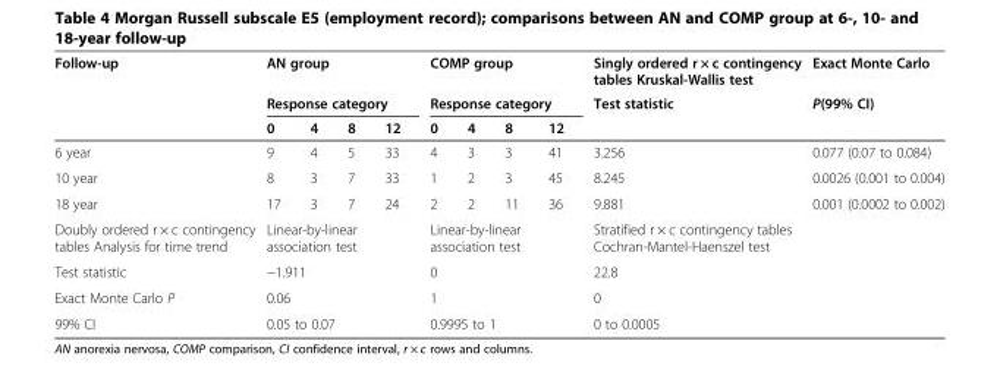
<table><thead><tr><td rowspan="3">Follow-up</td><td rowspan="2" colspan="4">AN group Response category</td><td rowspan="2" colspan="4">COMP group Response category</td><td rowspan="3">Singly ordered r × c contingency tables Kruskal-Wallis test Test statistic</td><td rowspan="3">Exact Monte Carlo P(99% CI)</td></tr><tr></tr><tr><td>0</td><td>4</td><td>8</td><td>12</td><td>0</td><td>4</td><td>8</td><td>12</td></tr></thead><tbody><tr><td>6 year</td><td>9</td><td>4</td><td>5</td><td>33</td><td>4</td><td>3</td><td>3</td><td>41</td><td>3.256</td><td>0.077 (0.07 to 0.084)</td></tr><tr><td>10 year</td><td>8</td><td>3</td><td>7</td><td>33</td><td>1</td><td>2</td><td>3</td><td>45</td><td>8.245</td><td>0.0026 (0.001 to 0.004)</td></tr><tr><td>18 year</td><td>17</td><td>3</td><td>7</td><td>24</td><td>2</td><td>2</td><td>11</td><td>36</td><td>9.881</td><td>0.001 (0.0002 to 0.002)</td></tr><tr><td>Doubly ordered r × c contingency tables Analysis for time trend</td><td colspan="4">Linear-by-linear association test</td><td colspan="4">Linear-by-linear association test</td><td>Stratified r × c contingency tables Cochran-Mantel-Haenszel test</td><td></td></tr><tr><td>Test statistic</td><td colspan="4">−1.911</td><td colspan="4">0</td><td>22.8</td><td></td></tr><tr><td>Exact Monte Carlo P</td><td colspan="4">0.06</td><td colspan="4">1</td><td>0</td><td></td></tr><tr><td>99% CI</td><td colspan="4">0.05 to 0.07</td><td colspan="4">0.9995 to 1</td><td>0 to 0.0005</td><td></td></tr></tbody></table>